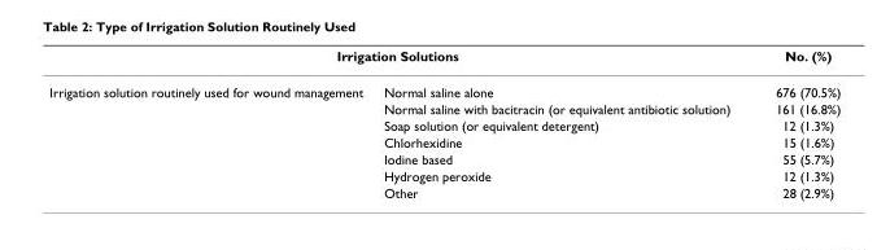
<table><thead><tr><td colspan="2">Irrigation Solutions</td><td rowspan="2">No. (%) 676 (70.5%)</td></tr><tr><td>Irrigation solution routinely used for wound management</td><td>Normal saline alone</td></tr></thead><tbody><tr><td></td><td>Normal saline with bacitracin (or equivalent antibiotic solution)</td><td>161 (16.8%)</td></tr><tr><td></td><td>Soap solution (or equivalent detergent)</td><td>12 (1.3%)</td></tr><tr><td></td><td>Chlorhexidine</td><td>15 (1.6%)</td></tr><tr><td></td><td>Iodine based</td><td>55 (5.7%)</td></tr><tr><td></td><td>Hydrogen peroxide</td><td>12 (1.3%)</td></tr><tr><td></td><td>Other</td><td>28 (2.9%)</td></tr></tbody></table>